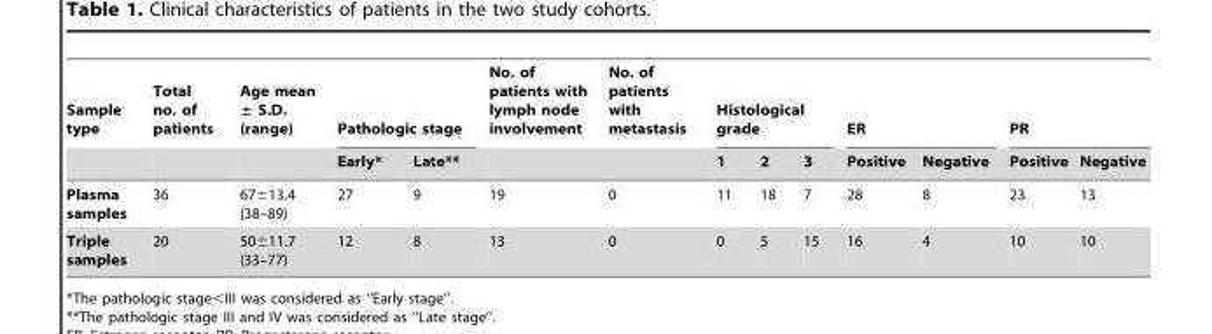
<table><thead><tr><td rowspan="2">Sample type</td><td rowspan="2">Total no. of patients</td><td rowspan="2">Age mean ± S.D. (range)</td><td colspan="2">Pathologic stage</td><td rowspan="2">No. of patients with lymph node involvement</td><td rowspan="2">No. of patients with metastasis</td><td colspan="3">Histological grade</td><td colspan="2">ER</td><td colspan="2">PR</td></tr><tr><td>Early*</td><td>Late**</td><td>1</td><td>2</td><td>3</td><td>Positive</td><td>Negative</td><td>Positive</td><td>Negative</td></tr></thead><tbody><tr><td>Plasma samples</td><td>36</td><td>67±13.4 (38–89)</td><td>27</td><td>9</td><td>19</td><td>0</td><td>11</td><td>18</td><td>7</td><td>28</td><td>8</td><td>23</td><td>13</td></tr><tr><td>Triple samples</td><td>20</td><td>50±11.7 (33–77)</td><td>12</td><td>8</td><td>13</td><td>0</td><td>0</td><td>5</td><td>15</td><td>16</td><td>4</td><td>10</td><td>10</td></tr></tbody></table>